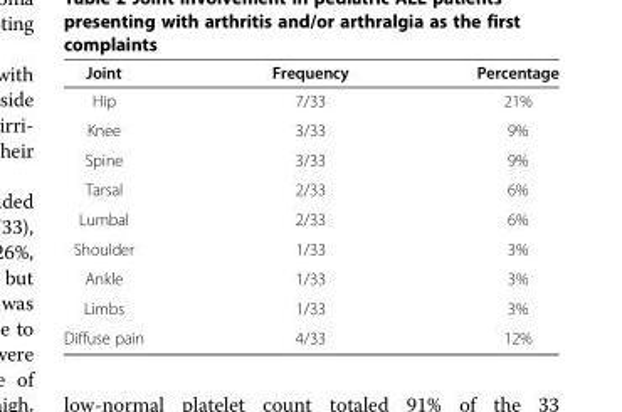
<table><thead><tr><td>Joint</td><td>Frequency</td><td>Percentage</td></tr></thead><tbody><tr><td>Hip</td><td>7/33</td><td>21%</td></tr><tr><td>Knee</td><td>3/33</td><td>9%</td></tr><tr><td>Spine</td><td>3/33</td><td>9%</td></tr><tr><td>Tarsal</td><td>2/33</td><td>6%</td></tr><tr><td>Lumbal</td><td>2/33</td><td>6%</td></tr><tr><td>Shoulder</td><td>1/33</td><td>3%</td></tr><tr><td>Ankle</td><td>1/33</td><td>3%</td></tr><tr><td>Limbs</td><td>1/33</td><td>3%</td></tr><tr><td>Diffuse pain</td><td>4/33</td><td>12%</td></tr></tbody></table>